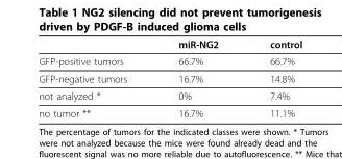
<table><thead><tr><td></td><td>miR-NG2</td><td>control</td></tr></thead><tbody><tr><td>GFP-positive tumors</td><td>66.7%</td><td>66.7%</td></tr><tr><td>GFP-negative tumors</td><td>16.7%</td><td>14.8%</td></tr><tr><td>not analyzed *</td><td>0%</td><td>7.4%</td></tr><tr><td>no tumor **</td><td>16.7%</td><td>11.1%</td></tr></tbody></table>